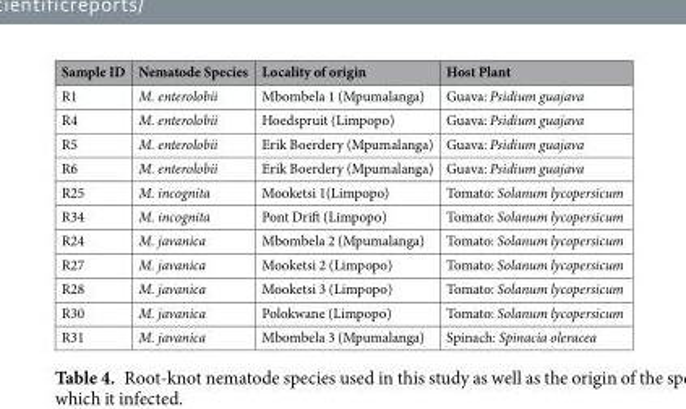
<table><thead><tr><td>Sample ID</td><td>Nematode Species</td><td>Locality of origin</td><td>Host Plant</td></tr></thead><tbody><tr><td>R1</td><td>M. enterolobii</td><td>Mbombela 1 (Mpumalanga)</td><td>Guava: Psidium guajava</td></tr><tr><td>R4</td><td>M. enterolobii</td><td>Hoedspruit (Limpopo)</td><td>Guava: Psidium guajava</td></tr><tr><td>R5</td><td>M. enterolobii</td><td>Erik Boerdery (Mpumalanga)</td><td>Guava: Psidium guajava</td></tr><tr><td>R6</td><td>M. enterolobii</td><td>Erik Boerdery (Mpumalanga)</td><td>Guava: Psidium guajava</td></tr><tr><td>R25</td><td>M. incognita</td><td>Mooketsi 1(Limpopo)</td><td>Tomato: Solanum lycopersicum</td></tr><tr><td>R34</td><td>M. incognita</td><td>Pont Drift (Limpopo)</td><td>Tomato: Solanum lycopersicum</td></tr><tr><td>R24</td><td>M. javanica</td><td>Mbombela 2 (Mpumalanga)</td><td>Tomato: Solanum lycopersicum</td></tr><tr><td>R27</td><td>M. javanica</td><td>Mooketsi 2 (Limpopo)</td><td>Tomato: Solanum lycopersicum</td></tr><tr><td>R28</td><td>M. javanica</td><td>Mooketsi 3 (Limpopo)</td><td>Tomato: Solanum lycopersicum</td></tr><tr><td>R30</td><td>M. javanica</td><td>Polokwane (Limpopo)</td><td>Tomato: Solanum lycopersicum</td></tr><tr><td>R31</td><td>M. javanica</td><td>Mbombela 3 (Mpumalanga)</td><td>Spinach: Spinacia oleracea</td></tr></tbody></table>